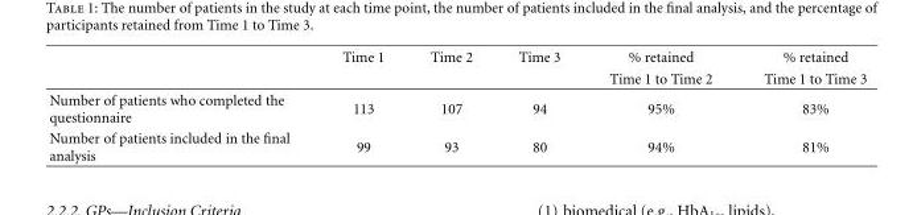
<table><thead><tr><td rowspan="2"></td><td rowspan="2">Time 1</td><td rowspan="2">Time 2</td><td rowspan="2">Time 3</td><td rowspan="2">% retained Time 1 to Time 2</td><td rowspan="2">% retained Time 1 to Time 3</td></tr><tr></tr></thead><tbody><tr><td>Number of patients who completed the questionnaire</td><td>113</td><td>107</td><td>94</td><td>95%</td><td>83%</td></tr><tr><td>Number of patients included in the final analysis</td><td>99</td><td>93</td><td>80</td><td>94%</td><td>81%</td></tr></tbody></table>